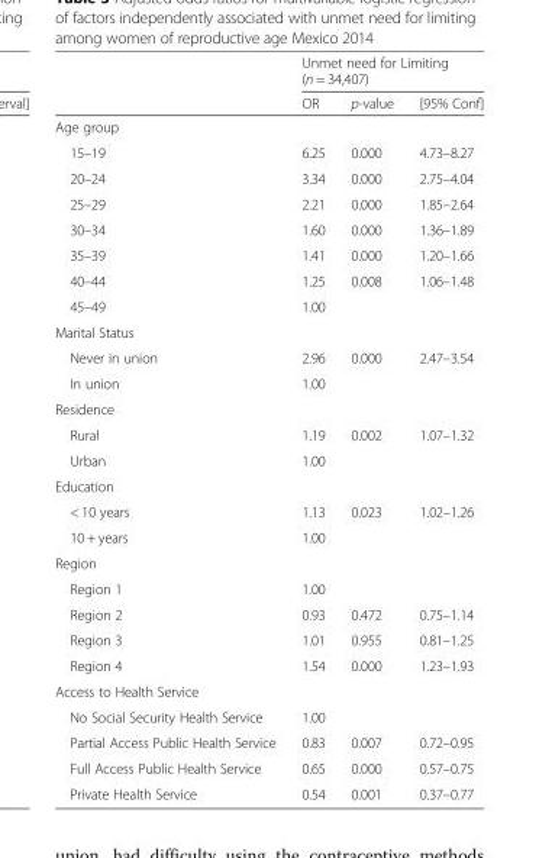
<table><thead><tr><td rowspan="2"></td><td colspan="3">Unmet need for Limiting (n = 34,407)</td></tr><tr><td>OR</td><td>p-value</td><td>[95% Conf]</td></tr></thead><tbody><tr><td colspan="4">Age group</td></tr><tr><td>15–19</td><td>6.25</td><td>0.000</td><td>4.73–8.27</td></tr><tr><td>20–24</td><td>3.34</td><td>0.000</td><td>2.75–4.04</td></tr><tr><td>25–29</td><td>2.21</td><td>0.000</td><td>1.85–2.64</td></tr><tr><td>30–34</td><td>1.60</td><td>0.000</td><td>1.36–1.89</td></tr><tr><td>35–39</td><td>1.41</td><td>0.000</td><td>1.20–1.66</td></tr><tr><td>40–44</td><td>1.25</td><td>0.008</td><td>1.06–1.48</td></tr><tr><td>45–49</td><td>1.00</td><td></td><td></td></tr><tr><td colspan="4">Marital Status</td></tr><tr><td>Never in union</td><td>2.96</td><td>0.000</td><td>2.47–3.54</td></tr><tr><td>In union</td><td>1.00</td><td></td><td></td></tr><tr><td colspan="4">Residence</td></tr><tr><td>Rural</td><td>1.19</td><td>0.002</td><td>1.07–1.32</td></tr><tr><td>Urban</td><td>1.00</td><td></td><td></td></tr><tr><td colspan="4">Education</td></tr><tr><td>&lt; 10 years</td><td>1.13</td><td>0.023</td><td>1.02–1.26</td></tr><tr><td>10 + years</td><td>1.00</td><td></td><td></td></tr><tr><td colspan="4">Region</td></tr><tr><td>Region 1</td><td>1.00</td><td></td><td></td></tr><tr><td>Region 2</td><td>0.93</td><td>0.472</td><td>0.75–1.14</td></tr><tr><td>Region 3</td><td>1.01</td><td>0.955</td><td>0.81–1.25</td></tr><tr><td>Region 4</td><td>1.54</td><td>0.000</td><td>1.23–1.93</td></tr><tr><td colspan="4">Access to Health Service</td></tr><tr><td>No Social Security Health Service</td><td>1.00</td><td></td><td></td></tr><tr><td>Partial Access Public Health Service</td><td>0.83</td><td>0.007</td><td>0.72–0.95</td></tr><tr><td>Full Access Public Health Service</td><td>0.65</td><td>0.000</td><td>0.57–0.75</td></tr><tr><td>Private Health Service</td><td>0.54</td><td>0.001</td><td>0.37–0.77</td></tr></tbody></table>